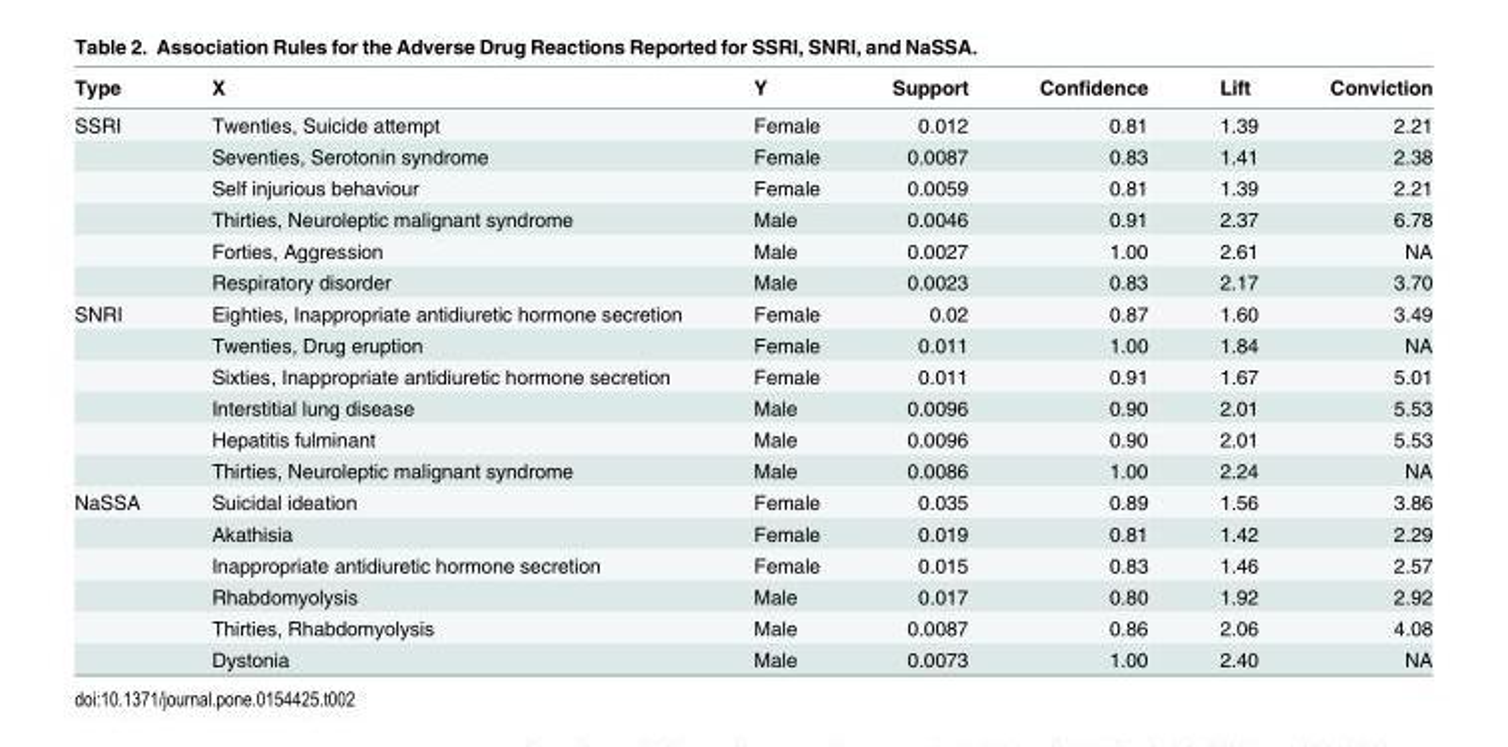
<table><thead><tr><td>Type</td><td>X</td><td>Y</td><td>Support</td><td>Confidence</td><td>Lift</td><td>Conviction</td></tr></thead><tbody><tr><td rowspan="6">SSRI</td><td>Twenties, Suicide attempt</td><td>Female</td><td>0.012</td><td>0.81</td><td>1.39</td><td>2.21</td></tr><tr><td>Seventies, Serotonin syndrome</td><td>Female</td><td>0.0087</td><td>0.83</td><td>1.41</td><td>2.38</td></tr><tr><td>Self injurious behaviour</td><td>Female</td><td>0.0059</td><td>0.81</td><td>1.39</td><td>2.21</td></tr><tr><td>Thirties, Neuroleptic malignant syndrome</td><td>Male</td><td>0.0046</td><td>0.91</td><td>2.37</td><td>6.78</td></tr><tr><td>Forties, Aggression</td><td>Male</td><td>0.0027</td><td>1.00</td><td>2.61</td><td>NA</td></tr><tr><td>Respiratory disorder</td><td>Male</td><td>0.0023</td><td>0.83</td><td>2.17</td><td>3.70</td></tr><tr><td rowspan="6">SNRI</td><td>Eighties, Inappropriate antidiuretic hormone secretion</td><td>Female</td><td>0.02</td><td>0.87</td><td>1.60</td><td>3.49</td></tr><tr><td>Twenties, Drug eruption</td><td>Female</td><td>0.011</td><td>1.00</td><td>1.84</td><td>NA</td></tr><tr><td>Sixties, Inappropriate antidiuretic hormone secretion</td><td>Female</td><td>0.011</td><td>0.91</td><td>1.67</td><td>5.01</td></tr><tr><td>Interstitial lung disease</td><td>Male</td><td>0.0096</td><td>0.90</td><td>2.01</td><td>5.53</td></tr><tr><td>Hepatitis fulminant</td><td>Male</td><td>0.0096</td><td>0.90</td><td>2.01</td><td>5.53</td></tr><tr><td>Thirties, Neuroleptic malignant syndrome</td><td>Male</td><td>0.0086</td><td>1.00</td><td>2.24</td><td>NA</td></tr><tr><td rowspan="6">NaSSA</td><td>Suicidal ideation</td><td>Female</td><td>0.035</td><td>0.89</td><td>1.56</td><td>3.86</td></tr><tr><td>Akathisia</td><td>Female</td><td>0.019</td><td>0.81</td><td>1.42</td><td>2.29</td></tr><tr><td>Inappropriate antidiuretic hormone secretion</td><td>Female</td><td>0.015</td><td>0.83</td><td>1.46</td><td>2.57</td></tr><tr><td>Rhabdomyolysis</td><td>Male</td><td>0.017</td><td>0.80</td><td>1.92</td><td>2.92</td></tr><tr><td>Thirties, Rhabdomyolysis</td><td>Male</td><td>0.0087</td><td>0.86</td><td>2.06</td><td>4.08</td></tr><tr><td>Dystonia</td><td>Male</td><td>0.0073</td><td>1.00</td><td>2.40</td><td>NA</td></tr></tbody></table>